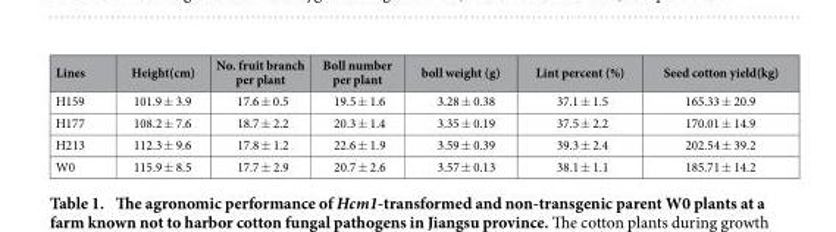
<table><tbody><tr><td>Lines</td><td>Height(cm)</td><td>No. fruit branch per plant</td><td>Boll number per plant</td><td>boll weight (g)</td><td>Lint percent (%)</td><td>Seed cotton yield(kg)</td></tr><tr><td>H159</td><td>101.9 ± 3.9</td><td>17.6 ± 0.5</td><td>19.5 ± 1.6</td><td>3.28 ± 0.38</td><td>37.1 ± 1.5</td><td>165.33 ± 20.9</td></tr><tr><td>H177</td><td>108.2 ± 7.6</td><td>18.7 ± 2.2</td><td>20.3 ± 1.4</td><td>3.35 ± 0.19</td><td>37.5 ± 2.2</td><td>170.01 ± 14.9</td></tr><tr><td>H213</td><td>112.3 ± 9.6</td><td>17.8 ± 1.2</td><td>22.6 ± 1.9</td><td>3.59 ± 0.39</td><td>39.3 ± 2.4</td><td>202.54 ± 39.2</td></tr><tr><td>W0</td><td>115.9 ± 8.5</td><td>17.7 ± 2.9</td><td>20.7 ± 2.6</td><td>3.57 ± 0.13</td><td>38.1 ± 1.1</td><td>185.71 ± 14.2</td></tr></tbody></table>